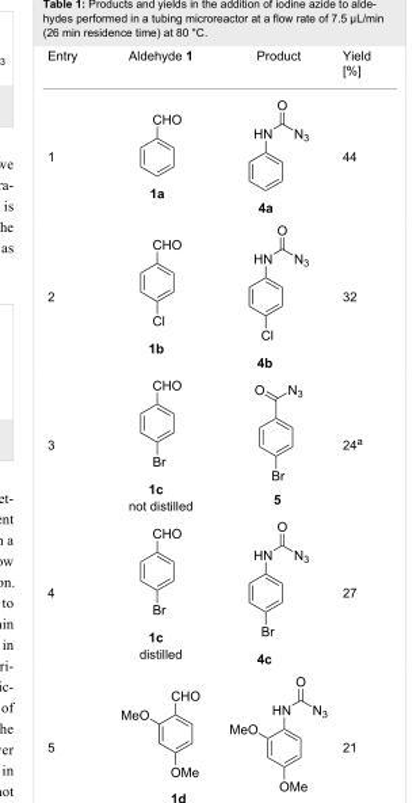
<table><tbody><tr><td>Entry</td><td>Aldehyde 1</td><td>Product</td><td>Yield [%]</td></tr><tr><td>1</td><td></td><td></td><td>44</td></tr><tr><td>2</td><td></td><td></td><td>32</td></tr><tr><td>3</td><td>not distilled</td><td></td><td>24<sup>a</sup></td></tr><tr><td>4</td><td>distilled</td><td></td><td>27</td></tr><tr><td>5</td><td></td><td></td><td>21</td></tr></tbody></table>